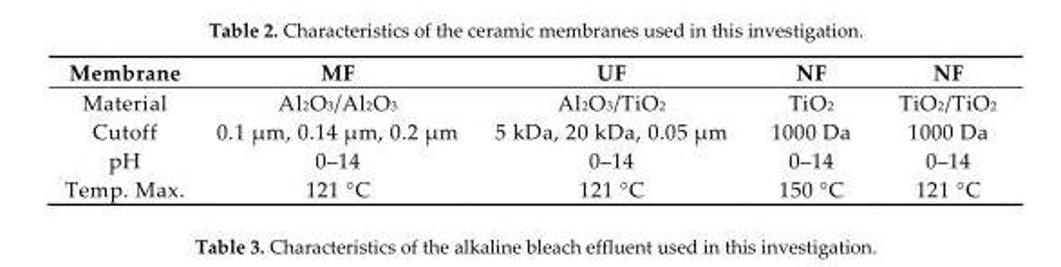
<table><thead><tr><td>Membrane</td><td>MF</td><td>UF</td><td>NF</td><td>NF</td></tr></thead><tbody><tr><td>Material</td><td>Al<sub>2</sub>O<sub>3</sub>/Al<sub>2</sub>O<sub>3</sub></td><td>Al<sub>2</sub>O<sub>3</sub>/TiO<sub>2</sub></td><td>TiO<sub>2</sub></td><td>TiO<sub>2</sub>/TiO<sub>2</sub></td></tr><tr><td>Cutoff</td><td>0.1 µm, 0.14 µm, 0.2 µm</td><td>5 kDa, 20 kDa, 0.05 µm</td><td>1000 Da</td><td>1000 Da</td></tr><tr><td>pH</td><td>0–14</td><td>0–14</td><td>0–14</td><td>0–14</td></tr><tr><td>Temp. Max.</td><td>121 °C</td><td>121 °C</td><td>150 °C</td><td>121 °C</td></tr></tbody></table>